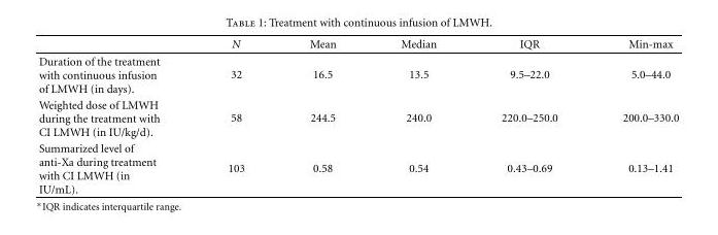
<table><thead><tr><td></td><td>N</td><td>Mean</td><td>Median</td><td>IQR</td><td>Min-max</td></tr></thead><tbody><tr><td>Duration of the treatment with continuous infusion of LMWH (in days).</td><td>32</td><td>16.5</td><td>13.5</td><td>9.5–22.0</td><td>5.0–44.0</td></tr><tr><td>Weighted dose of LMWH during the treatment with CI LMWH (in IU/kg/d).</td><td>58</td><td>244.5</td><td>240.0</td><td>220.0–250.0</td><td>200.0–330.0</td></tr><tr><td>Summarized level of anti-Xa during treatment with CI LMWH (in IU/mL).</td><td>103</td><td>0.58</td><td>0.54</td><td>0.43–0.69</td><td>0.13–1.41</td></tr></tbody></table>